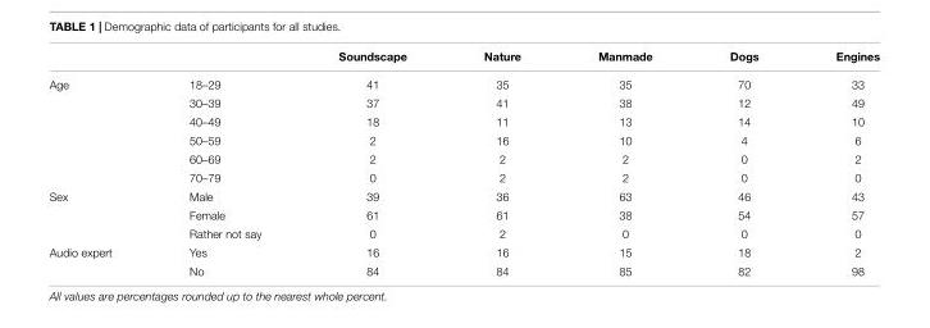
<table><thead><tr><td></td><td></td><td>Soundscape</td><td>Nature</td><td>Manmade</td><td>Dogs</td><td>Engines</td></tr></thead><tbody><tr><td rowspan="6">Age</td><td>18–29</td><td>41</td><td>35</td><td>35</td><td>70</td><td>33</td></tr><tr><td>30–39</td><td>37</td><td>41</td><td>38</td><td>12</td><td>49</td></tr><tr><td>40–49</td><td>18</td><td>11</td><td>13</td><td>14</td><td>10</td></tr><tr><td>50–59</td><td>2</td><td>16</td><td>10</td><td>4</td><td>6</td></tr><tr><td>60–69</td><td>2</td><td>2</td><td>2</td><td>0</td><td>2</td></tr><tr><td>70–79</td><td>0</td><td>2</td><td>2</td><td>0</td><td>0</td></tr><tr><td rowspan="3">Sex</td><td>Male</td><td>39</td><td>36</td><td>63</td><td>46</td><td>43</td></tr><tr><td>Female</td><td>61</td><td>61</td><td>38</td><td>54</td><td>57</td></tr><tr><td>Rather not say</td><td>0</td><td>2</td><td>0</td><td>0</td><td>0</td></tr><tr><td rowspan="2">Audio expert</td><td>Yes</td><td>16</td><td>16</td><td>15</td><td>18</td><td>2</td></tr><tr><td>No</td><td>84</td><td>84</td><td>85</td><td>82</td><td>98</td></tr></tbody></table>